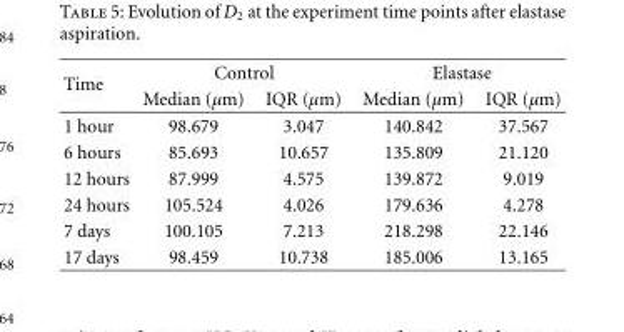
<table><thead><tr><td rowspan="2">Time</td><td colspan="2">Control</td><td colspan="2">Elastase</td></tr><tr><td>Median (μm)</td><td>IQR (μm)</td><td>Median (μm)</td><td>IQR (μm)</td></tr></thead><tbody><tr><td>1 hour</td><td>98.679</td><td>3.047</td><td>140.842</td><td>37.567</td></tr><tr><td>6 hours</td><td>85.693</td><td>10.657</td><td>135.809</td><td>21.120</td></tr><tr><td>12 hours</td><td>87.999</td><td>4.575</td><td>139.872</td><td>9.019</td></tr><tr><td>24 hours</td><td>105.524</td><td>4.026</td><td>179.636</td><td>4.278</td></tr><tr><td>7 days</td><td>100.105</td><td>7.213</td><td>218.298</td><td>22.146</td></tr><tr><td>17 days</td><td>98.459</td><td>10.738</td><td>185.006</td><td>13.165</td></tr></tbody></table>